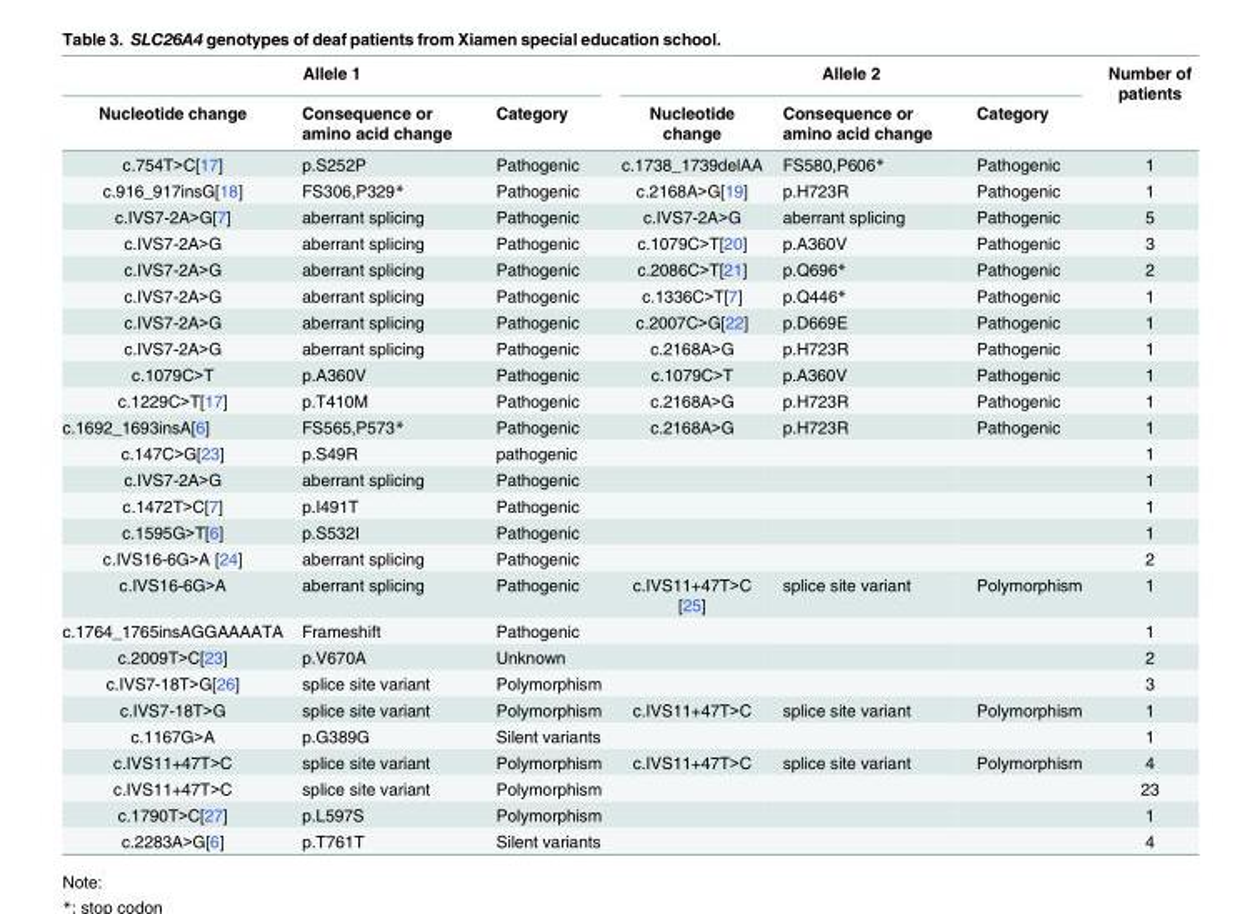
<table><thead><tr><td colspan="3">Allele 1</td><td colspan="3">Allele 2</td><td rowspan="2">Number of patients</td></tr><tr><td>Nucleotide change</td><td>Consequence or amino acid change</td><td>Category</td><td>Nucleotide change</td><td>Consequence or amino acid change</td><td>Category</td></tr></thead><tbody><tr><td>c.754T&gt;C[17]</td><td>p.S252P</td><td>Pathogenic</td><td>c.1738_1739delAA</td><td>FS580,P606*</td><td>Pathogenic</td><td>1</td></tr><tr><td>c.916_917insG[18]</td><td>FS306,P329*</td><td>Pathogenic</td><td>c.2168A&gt;G[19]</td><td>p.H723R</td><td>Pathogenic</td><td>1</td></tr><tr><td>c.IVS7-2A&gt;G[7]</td><td>aberrant splicing</td><td>Pathogenic</td><td>c.IVS7-2A&gt;G</td><td>aberrant splicing</td><td>Pathogenic</td><td>5</td></tr><tr><td>c.IVS7-2A&gt;G</td><td>aberrant splicing</td><td>Pathogenic</td><td>c.1079C&gt;T[20]</td><td>p.A360V</td><td>Pathogenic</td><td>3</td></tr><tr><td>c.IVS7-2A&gt;G</td><td>aberrant splicing</td><td>Pathogenic</td><td>c.2086C&gt;T[21]</td><td>p.Q696*</td><td>Pathogenic</td><td>2</td></tr><tr><td>c.IVS7-2A&gt;G</td><td>aberrant splicing</td><td>Pathogenic</td><td>c.1336C&gt;T[7]</td><td>p.Q446*</td><td>Pathogenic</td><td>1</td></tr><tr><td>c.IVS7-2A&gt;G</td><td>aberrant splicing</td><td>Pathogenic</td><td>c.2007C&gt;G[22]</td><td>p.D669E</td><td>Pathogenic</td><td>1</td></tr><tr><td>c.IVS7-2A&gt;G</td><td>aberrant splicing</td><td>Pathogenic</td><td>c.2168A&gt;G</td><td>p.H723R</td><td>Pathogenic</td><td>1</td></tr><tr><td>c.1079C&gt;T</td><td>p.A360V</td><td>Pathogenic</td><td>c.1079C&gt;T</td><td>p.A360V</td><td>Pathogenic</td><td>1</td></tr><tr><td>c.1229C&gt;T[17]</td><td>p.T410M</td><td>Pathogenic</td><td>c.2168A&gt;G</td><td>p.H723R</td><td>Pathogenic</td><td>1</td></tr><tr><td>c.1692_1693insA[6]</td><td>FS565,P573*</td><td>Pathogenic</td><td>c.2168A&gt;G</td><td>p.H723R</td><td>Pathogenic</td><td>1</td></tr><tr><td>c.147C&gt;G[23]</td><td>p.S49R</td><td>pathogenic</td><td></td><td></td><td></td><td>1</td></tr><tr><td>c.IVS7-2A&gt;G</td><td>aberrant splicing</td><td>Pathogenic</td><td></td><td></td><td></td><td>1</td></tr><tr><td>c.1472T&gt;C[7]</td><td>p.I491T</td><td>Pathogenic</td><td></td><td></td><td></td><td>1</td></tr><tr><td>c.1595G&gt;T[6]</td><td>p.S532I</td><td>Pathogenic</td><td></td><td></td><td></td><td>1</td></tr><tr><td>c.IVS16-6G&gt;A [24]</td><td>aberrant splicing</td><td>Pathogenic</td><td></td><td></td><td></td><td>2</td></tr><tr><td>c.IVS16-6G&gt;A</td><td>aberrant splicing</td><td>Pathogenic</td><td>c.IVS11+47T&gt;C [25]</td><td>splice site variant</td><td>Polymorphism</td><td>1</td></tr><tr><td>c.1764_1765insAGGAAAATA</td><td>Frameshift</td><td>Pathogenic</td><td></td><td></td><td></td><td>1</td></tr><tr><td>c.2009T&gt;C[23]</td><td>p.V670A</td><td>Unknown</td><td></td><td></td><td></td><td>2</td></tr><tr><td>c.IVS7-18T&gt;G[26]</td><td>splice site variant</td><td>Polymorphism</td><td></td><td></td><td></td><td>3</td></tr><tr><td>c.IVS7-18T&gt;G</td><td>splice site variant</td><td>Polymorphism</td><td>c.IVS11+47T&gt;C</td><td>splice site variant</td><td>Polymorphism</td><td>1</td></tr><tr><td>c.1167G&gt;A</td><td>p.G389G</td><td>Silent variants</td><td></td><td></td><td></td><td>1</td></tr><tr><td>c.IVS11+47T&gt;C</td><td>splice site variant</td><td>Polymorphism</td><td>c.IVS11+47T&gt;C</td><td>splice site variant</td><td>Polymorphism</td><td>4</td></tr><tr><td>c.IVS11+47T&gt;C</td><td>splice site variant</td><td>Polymorphism</td><td></td><td></td><td></td><td>23</td></tr><tr><td>c.1790T&gt;C[27]</td><td>p.L597S</td><td>Polymorphism</td><td></td><td></td><td></td><td>1</td></tr><tr><td>c.2283A&gt;G[6]</td><td>p.T761T</td><td>Silent variants</td><td></td><td></td><td></td><td>4</td></tr></tbody></table>